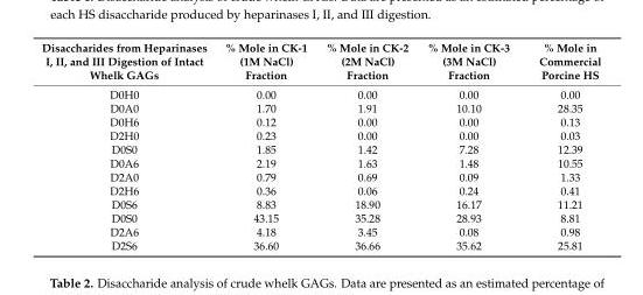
<table><thead><tr><td>Disaccharides from Heparinases I, II, and III Digestion of Intact Whelk GAGs</td><td>% Mole in CK-1 (1M NaCl) Fraction</td><td>% Mole in CK-2 (2M NaCl) Fraction</td><td>% Mole in CK-3 (3M NaCl) Fraction</td><td>% Mole in Commercial Porcine HS</td></tr></thead><tbody><tr><td>D0H0</td><td>0.00</td><td>0.00</td><td>0.00</td><td>0.00</td></tr><tr><td>D0A0</td><td>1.70</td><td>1.91</td><td>10.10</td><td>28.35</td></tr><tr><td>D0H6</td><td>0.12</td><td>0.00</td><td>0.00</td><td>0.13</td></tr><tr><td>D2H0</td><td>0.23</td><td>0.00</td><td>0.00</td><td>0.03</td></tr><tr><td>D0S0</td><td>1.85</td><td>1.42</td><td>7.28</td><td>12.39</td></tr><tr><td>D0A6</td><td>2.19</td><td>1.63</td><td>1.48</td><td>10.55</td></tr><tr><td>D2A0</td><td>0.79</td><td>0.69</td><td>0.09</td><td>1.33</td></tr><tr><td>D2H6</td><td>0.36</td><td>0.06</td><td>0.24</td><td>0.41</td></tr><tr><td>D0S6</td><td>8.83</td><td>18.90</td><td>16.17</td><td>11.21</td></tr><tr><td>D0S0</td><td>43.15</td><td>35.28</td><td>28.93</td><td>8.81</td></tr><tr><td>D2A6</td><td>4.18</td><td>3.45</td><td>0.08</td><td>0.98</td></tr><tr><td>D2S6</td><td>36.60</td><td>36.66</td><td>35.62</td><td>25.81</td></tr></tbody></table>